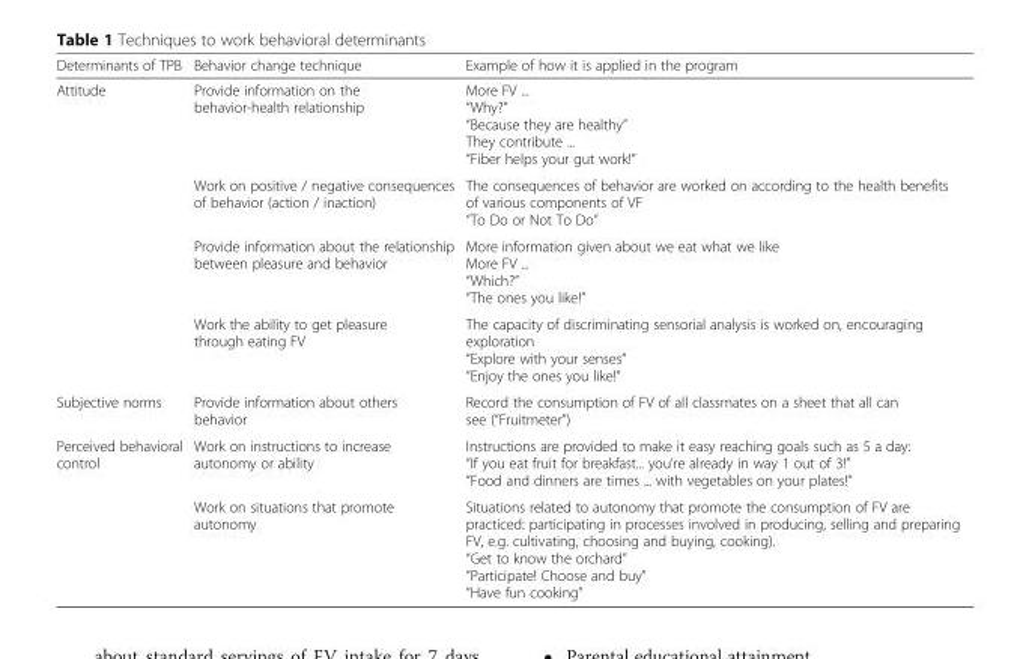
<table><thead><tr><td>Determinants of TPB</td><td>Behavior change technique</td><td>Example of how it is applied in the program</td></tr></thead><tbody><tr><td rowspan="4">Attitude</td><td>Provide information on the behavior-health relationship</td><td>More FV ... “Why?” “Because they are healthy” They contribute ... “Fiber helps your gut work!”</td></tr><tr><td>Work on positive / negative consequences of behavior (action / inaction)</td><td>The consequences of behavior are worked on according to the health benefits of various components of VF “To Do or Not To Do”</td></tr><tr><td>Provide information about the relationship between pleasure and behavior</td><td>More information given about we eat what we like More FV ... “Which?” “The ones you like!”</td></tr><tr><td>Work the ability to get pleasure through eating FV</td><td>The capacity of discriminating sensorial analysis is worked on, encouraging exploration “Explore with your senses” “Enjoy the ones you like!”</td></tr><tr><td>Subjective norms</td><td>Provide information about others behavior</td><td>Record the consumption of FV of all classmates on a sheet that all can see (“Fruitmeter”)</td></tr><tr><td rowspan="2">Perceived behavioral control</td><td>Work on instructions to increase autonomy or ability</td><td>Instructions are provided to make it easy reaching goals such as 5 a day: “If you eat fruit for breakfast... you’re already in way 1 out of 3!” “Food and dinners are times ... with vegetables on your plates!”</td></tr><tr><td>Work on situations that promote autonomy</td><td>Situations related to autonomy that promote the consumption of FV are practiced: participating in processes involved in producing, selling and preparing FV, e.g. cultivating, choosing and buying, cooking). “Get to know the orchard” “Participate! Choose and buy” “Have fun cooking”</td></tr></tbody></table>